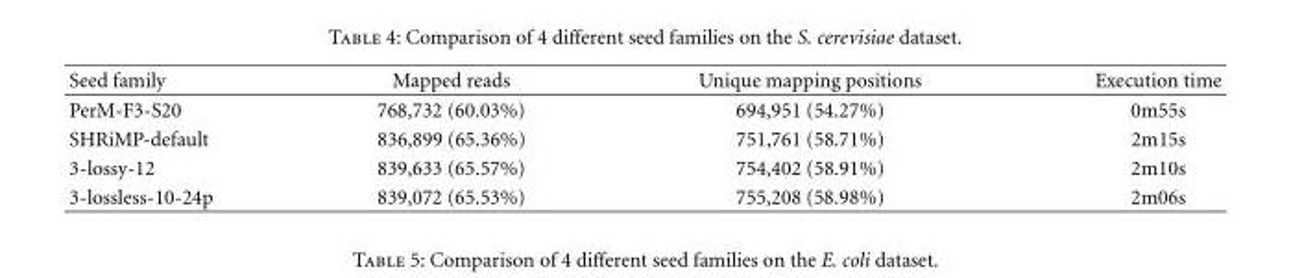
<table><thead><tr><td>Seed family</td><td>Mapped reads</td><td>Unique mapping positions</td><td>Execution time</td></tr></thead><tbody><tr><td>PerM-F3-S20</td><td>768,732 (60.03%)</td><td>694,951 (54.27%)</td><td>0m55s</td></tr><tr><td>SHRiMP-default</td><td>836,899 (65.36%)</td><td>751,761 (58.71%)</td><td>2m15s</td></tr><tr><td>3-lossy-12</td><td>839,633 (65.57%)</td><td>754,402 (58.91%)</td><td>2m10s</td></tr><tr><td>3-lossless-10-24p</td><td>839,072 (65.53%)</td><td>755,208 (58.98%)</td><td>2m06s</td></tr></tbody></table>